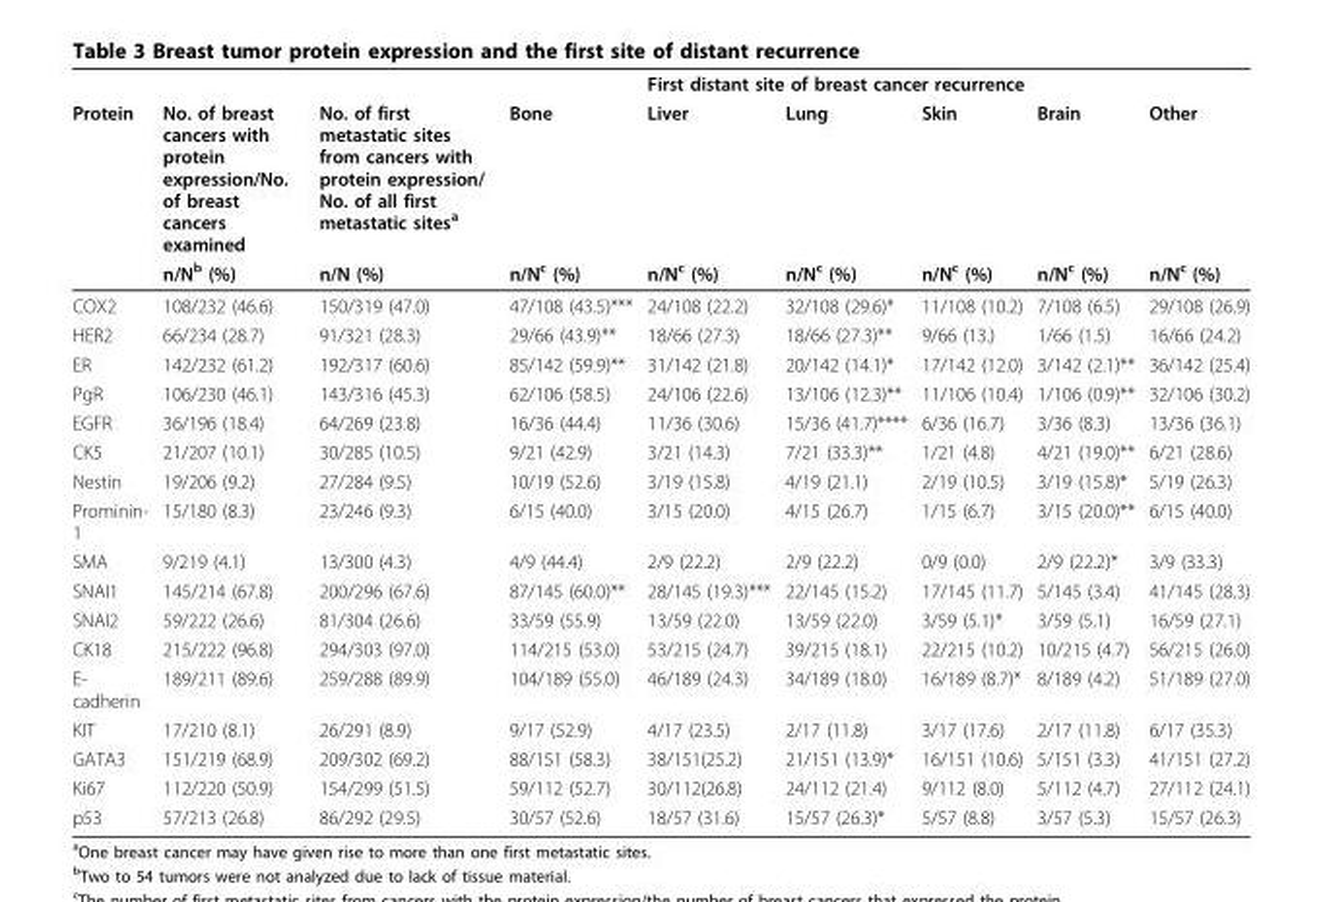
<table><thead><tr><td rowspan="3">Protein</td><td rowspan="3">No. of breast cancers with protein expression/No. of breast cancers examined n/N<sup>b</sup> (%)</td><td rowspan="3">No. of first metastatic sites from cancers with protein expression/ No. of all first metastatic sites<sup>a</sup> n/N (%)</td><td rowspan="3">Bone n/N<sup>c</sup> (%)</td><td colspan="4">First distant site of breast cancer recurrence</td><td rowspan="3">Other n/N<sup>c</sup> (%)</td></tr><tr><td rowspan="2">Liver n/N<sup>c</sup> (%)</td><td rowspan="2">Lung n/N<sup>c</sup> (%)</td><td rowspan="2">Skin n/N<sup>c</sup> (%)</td><td rowspan="2">Brain n/N<sup>c</sup> (%)</td></tr><tr></tr></thead><tbody><tr><td>COX2</td><td>108/232 (46.6)</td><td>150/319 (47.0)</td><td>47/108 (43.5)***</td><td>24/108 (22.2)</td><td>32/108 (29.6)*</td><td>11/108 (10.2)</td><td>7/108 (6.5)</td><td>29/108 (26.9)</td></tr><tr><td>HER2</td><td>66/234 (28.7)</td><td>91/321 (28.3)</td><td>29/66 (43.9)**</td><td>18/66 (27.3)</td><td>18/66 (27.3)**</td><td>9/66 (13.)</td><td>1/66 (1.5)</td><td>16/66 (24.2)</td></tr><tr><td>ER</td><td>142/232 (61.2)</td><td>192/317 (60.6)</td><td>85/142 (59.9)**</td><td>31/142 (21.8)</td><td>20/142 (14.1)*</td><td>17/142 (12.0)</td><td>3/142 (2.1)**</td><td>36/142 (25.4)</td></tr><tr><td>PgR</td><td>106/230 (46.1)</td><td>143/316 (45.3)</td><td>62/106 (58.5)</td><td>24/106 (22.6)</td><td>13/106 (12.3)**</td><td>11/106 (10.4)</td><td>1/106 (0.9)**</td><td>32/106 (30.2)</td></tr><tr><td>EGFR</td><td>36/196 (18.4)</td><td>64/269 (23.8)</td><td>16/36 (44.4)</td><td>11/36 (30.6)</td><td>15/36 (41.7)****</td><td>6/36 (16.7)</td><td>3/36 (8.3)</td><td>13/36 (36.1)</td></tr><tr><td>CK5</td><td>21/207 (10.1)</td><td>30/285 (10.5)</td><td>9/21 (42.9)</td><td>3/21 (14.3)</td><td>7/21 (33.3)**</td><td>1/21 (4.8)</td><td>4/21 (19.0)**</td><td>6/21 (28.6)</td></tr><tr><td>Nestin</td><td>19/206 (9.2)</td><td>27/284 (9.5)</td><td>10/19 (52.6)</td><td>3/19 (15.8)</td><td>4/19 (21.1)</td><td>2/19 (10.5)</td><td>3/19 (15.8)*</td><td>5/19 (26.3)</td></tr><tr><td>Prominin- 1</td><td>15/180 (8.3)</td><td>23/246 (9.3)</td><td>6/15 (40.0)</td><td>3/15 (20.0)</td><td>4/15 (26.7)</td><td>1/15 (6.7)</td><td>3/15 (20.0)**</td><td>6/15 (40.0)</td></tr><tr><td>SMA</td><td>9/219 (4.1)</td><td>13/300 (4.3)</td><td>4/9 (44.4)</td><td>2/9 (22.2)</td><td>2/9 (22.2)</td><td>0/9 (0.0)</td><td>2/9 (22.2)*</td><td>3/9 (33.3)</td></tr><tr><td>SNAI1</td><td>145/214 (67.8)</td><td>200/296 (67.6)</td><td>87/145 (60.0)**</td><td>28/145 (19.3)***</td><td>22/145 (15.2)</td><td>17/145 (11.7)</td><td>5/145 (3.4)</td><td>41/145 (28.3)</td></tr><tr><td>SNAI2</td><td>59/222 (26.6)</td><td>81/304 (26.6)</td><td>33/59 (55.9)</td><td>13/59 (22.0)</td><td>13/59 (22.0)</td><td>3/59 (5.1)*</td><td>3/59 (5.1)</td><td>16/59 (27.1)</td></tr><tr><td>CK18</td><td>215/222 (96.8)</td><td>294/303 (97.0)</td><td>114/215 (53.0)</td><td>53/215 (24.7)</td><td>39/215 (18.1)</td><td>22/215 (10.2)</td><td>10/215 (4.7)</td><td>56/215 (26.0)</td></tr><tr><td>E- cadherin</td><td>189/211 (89.6)</td><td>259/288 (89.9)</td><td>104/189 (55.0)</td><td>46/189 (24.3)</td><td>34/189 (18.0)</td><td>16/189 (8.7)*</td><td>8/189 (4.2)</td><td>51/189 (27.0)</td></tr><tr><td>KIT</td><td>17/210 (8.1)</td><td>26/291 (8.9)</td><td>9/17 (52.9)</td><td>4/17 (23.5)</td><td>2/17 (11.8)</td><td>3/17 (17.6)</td><td>2/17 (11.8)</td><td>6/17 (35.3)</td></tr><tr><td>GATA3</td><td>151/219 (68.9)</td><td>209/302 (69.2)</td><td>88/151 (58.3)</td><td>38/151(25.2)</td><td>21/151 (13.9)*</td><td>16/151 (10.6)</td><td>5/151 (3.3)</td><td>41/151 (27.2)</td></tr><tr><td>Ki67</td><td>112/220 (50.9)</td><td>154/299 (51.5)</td><td>59/112 (52.7)</td><td>30/112(26.8)</td><td>24/112 (21.4)</td><td>9/112 (8.0)</td><td>5/112 (4.7)</td><td>27/112 (24.1)</td></tr><tr><td>p53</td><td>57/213 (26.8)</td><td>86/292 (29.5)</td><td>30/57 (52.6)</td><td>18/57 (31.6)</td><td>15/57 (26.3)*</td><td>5/57 (8.8)</td><td>3/57 (5.3)</td><td>15/57 (26.3)</td></tr></tbody></table>